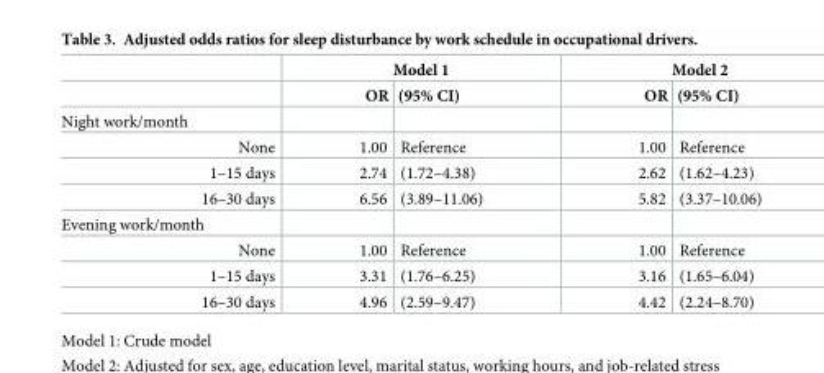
<table><thead><tr><td rowspan="2"></td><td colspan="2">Model 1</td><td colspan="2">Model 2</td></tr><tr><td>OR</td><td>(95% CI)</td><td>OR</td><td>(95% CI)</td></tr></thead><tbody><tr><td colspan="5">Night work/month</td></tr><tr><td>None</td><td>1.00</td><td>Reference</td><td>1.00</td><td>Reference</td></tr><tr><td>1–15 days</td><td>2.74</td><td>(1.72–4.38)</td><td>2.62</td><td>(1.62–4.23)</td></tr><tr><td>16–30 days</td><td>6.56</td><td>(3.89–11.06)</td><td>5.82</td><td>(3.37–10.06)</td></tr><tr><td colspan="5">Evening work/month</td></tr><tr><td>None</td><td>1.00</td><td>Reference</td><td>1.00</td><td>Reference</td></tr><tr><td>1–15 days</td><td>3.31</td><td>(1.76–6.25)</td><td>3.16</td><td>(1.65–6.04)</td></tr><tr><td>16–30 days</td><td>4.96</td><td>(2.59–9.47)</td><td>4.42</td><td>(2.24–8.70)</td></tr></tbody></table>